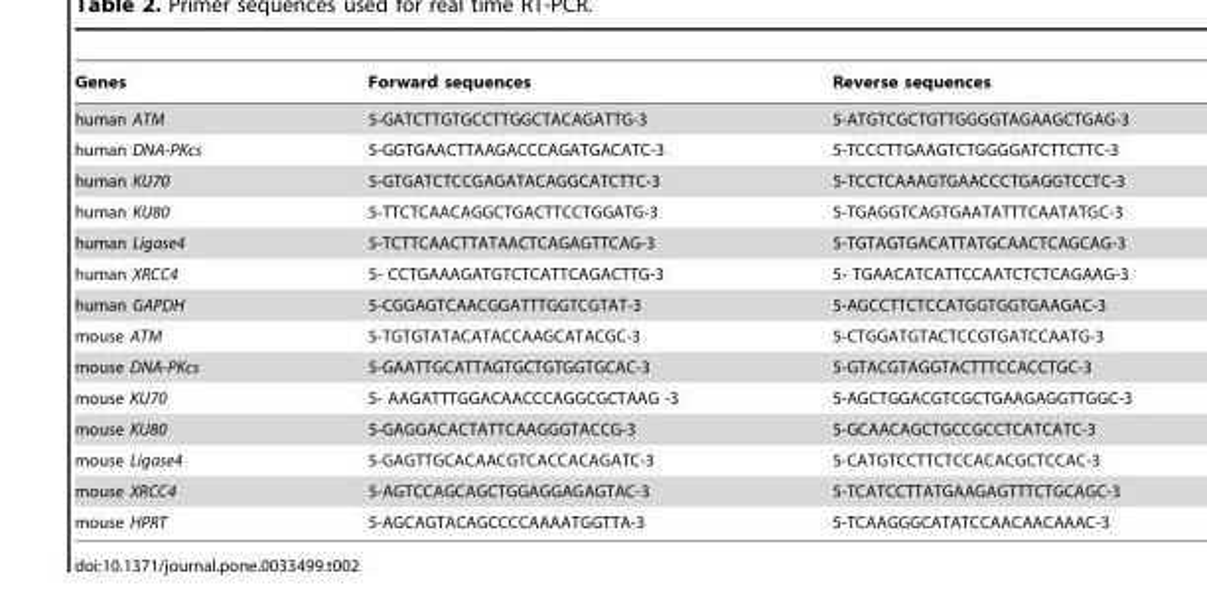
<table><thead><tr><td>Genes</td><td>Forward sequences</td><td>Reverse sequences</td></tr></thead><tbody><tr><td>human ATM</td><td>5-GATCTTGTGCCTTGGCTACAGATTG-3</td><td>5-ATGTCGCTGTTGGGGTAGAAGCTGAG-3</td></tr><tr><td>human DNA-PKcs</td><td>5-GGTGAACTTAAGACCCAGATGACATC-3</td><td>5-TCCCTTGAAGTCTGGGGATCTTCTTC-3</td></tr><tr><td>human KU70</td><td>5-GTGATCTCCGAGATACAGGCATCTTC-3</td><td>5-TCCTCAAAGTGAACCCTGAGGTCCTC-3</td></tr><tr><td>human KU80</td><td>5-TTCTCAACAGGCTGACTTCCTGGATG-3</td><td>5-TGAGGTCAGTGAATATTTCAATATGC-3</td></tr><tr><td>human Ligase4</td><td>5-TCTTCAACTTATAACTCAGAGTTCAG-3</td><td>5-TGTAGTGACATTATGCAACTCAGCAG-3</td></tr><tr><td>human XRCC4</td><td>5- CCTGAAAGATGTCTCATTCAGACTTG-3</td><td>5- TGAACATCATTCCAATCTCTCAGAAG-3</td></tr><tr><td>human GAPDH</td><td>5-CGGAGTCAACGGATTTGGTCGTAT-3</td><td>5-AGCCTTCTCCATGGTGGTGAAGAC-3</td></tr><tr><td>mouse ATM</td><td>5-TGTGTATACATACCAAGCATACGC-3</td><td>5-CTGGATGTACTCCGTGATCCAATG-3</td></tr><tr><td>mouse DNA-PKcs</td><td>5-GAATTGCATTAGTGCTGTGGTGCAC-3</td><td>5-GTACGTAGGTACTTTCCACCTGC-3</td></tr><tr><td>mouse KU70</td><td>5- AAGATTTGGACAACCCAGGCGCTAAG -3</td><td>5-AGCTGGACGTCGCTGAAGAGGTTGGC-3</td></tr><tr><td>mouse KU80</td><td>5-GAGGACACTATTCAAGGGTACCG-3</td><td>5-GCAACAGCTGCCGCCTCATCATC-3</td></tr><tr><td>mouse Ligase4</td><td>5-GAGTTGCACAACGTCACCACAGATC-3</td><td>5-CATGTCCTTCTCCACACGCTCCAC-3</td></tr><tr><td>mouse XRCC4</td><td>5-AGTCCAGCAGCTGGAGGAGAGTAC-3</td><td>5-TCATCCTTATGAAGAGTTTCTGCAGC-3</td></tr><tr><td>mouse HPRT</td><td>5-AGCAGTACAGCCCCAAAATGGTTA-3</td><td>5-TCAAGGGCATATCCAACAACAAAC-3</td></tr></tbody></table>